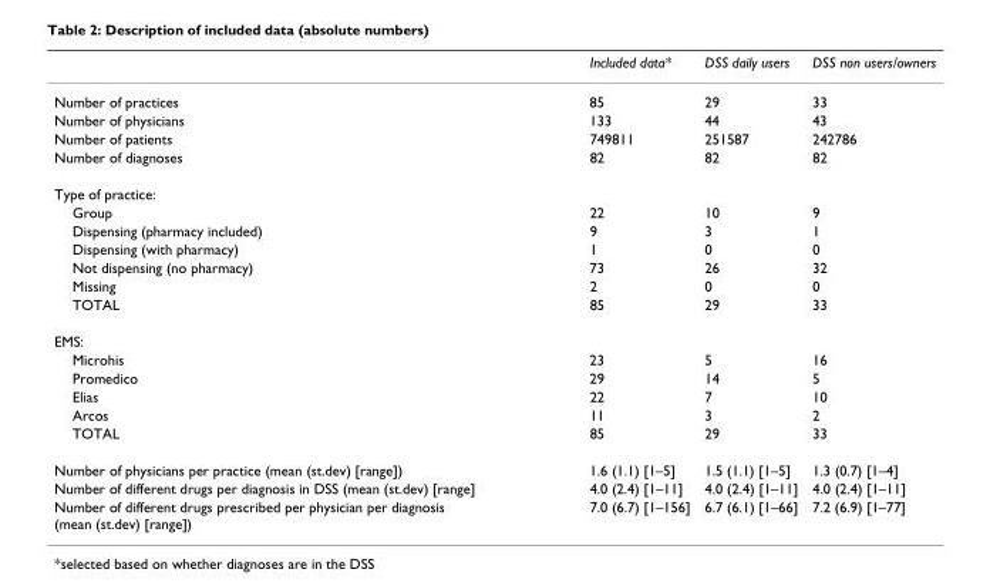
<table><thead><tr><td></td><td>Included data*</td><td>DSS daily users</td><td>DSS non users/owners</td></tr></thead><tbody><tr><td>Number of practices</td><td>85</td><td>29</td><td>33</td></tr><tr><td>Number of physicians</td><td>133</td><td>44</td><td>43</td></tr><tr><td>Number of patients</td><td>749811</td><td>251587</td><td>242786</td></tr><tr><td>Number of diagnoses</td><td>82</td><td>82</td><td>82</td></tr><tr><td colspan="4">Type of practice:</td></tr><tr><td>Group</td><td>22</td><td>10</td><td>9</td></tr><tr><td>Dispensing (pharmacy included)</td><td>9</td><td>3</td><td>1</td></tr><tr><td>Dispensing (with pharmacy)</td><td>1</td><td>0</td><td>0</td></tr><tr><td>Not dispensing (no pharmacy)</td><td>73</td><td>26</td><td>32</td></tr><tr><td>Missing</td><td>2</td><td>0</td><td>0</td></tr><tr><td>TOTAL</td><td>85</td><td>29</td><td>33</td></tr><tr><td colspan="4">EMS:</td></tr><tr><td>Microhis</td><td>23</td><td>5</td><td>16</td></tr><tr><td>Promedico</td><td>29</td><td>14</td><td>5</td></tr><tr><td>Elias</td><td>22</td><td>7</td><td>10</td></tr><tr><td>Arcos</td><td>11</td><td>3</td><td>2</td></tr><tr><td>TOTAL</td><td>85</td><td>29</td><td>33</td></tr><tr><td>Number of physicians per practice (mean (st.dev) [range])</td><td>1.6 (1.1) [1–5]</td><td>1.5 (1.1) [1–5]</td><td>1.3 (0.7) [1–4]</td></tr><tr><td>Number of different drugs per diagnosis in DSS (mean (st.dev) [range]</td><td>4.0 (2.4) [1–11]</td><td>4.0 (2.4) [1–11]</td><td>4.0 (2.4) [1–11]</td></tr><tr><td>Number of different drugs prescribed per physician per diagnosis (mean (st.dev) [range])</td><td>7.0 (6.7) [1–156]</td><td>6.7 (6.1) [1–66]</td><td>7.2 (6.9) [1–77]</td></tr></tbody></table>